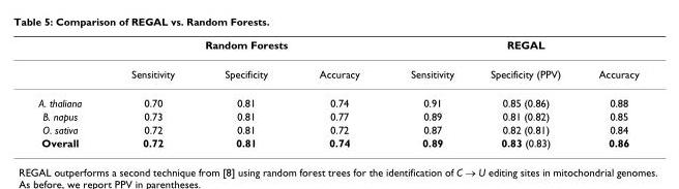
<table><thead><tr><td rowspan="2"></td><td colspan="3">Random Forests</td><td colspan="3">REGAL</td></tr><tr><td>Sensitivity</td><td>Specificity</td><td>Accuracy</td><td>Sensitivity</td><td>Specificity (PPV)</td><td>Accuracy</td></tr></thead><tbody><tr><td>A. thaliana</td><td>0.70</td><td>0.81</td><td>0.74</td><td>0.91</td><td>0.85 (0.86)</td><td>0.88</td></tr><tr><td>B. napus</td><td>0.73</td><td>0.81</td><td>0.77</td><td>0.89</td><td>0.81 (0.82)</td><td>0.85</td></tr><tr><td>O. sativa</td><td>0.72</td><td>0.81</td><td>0.72</td><td>0.87</td><td>0.82 (0.81)</td><td>0.84</td></tr><tr><td>Overall</td><td>0.72</td><td>0.81</td><td>0.74</td><td>0.89</td><td>0.83 (0.83)</td><td>0.86</td></tr></tbody></table>